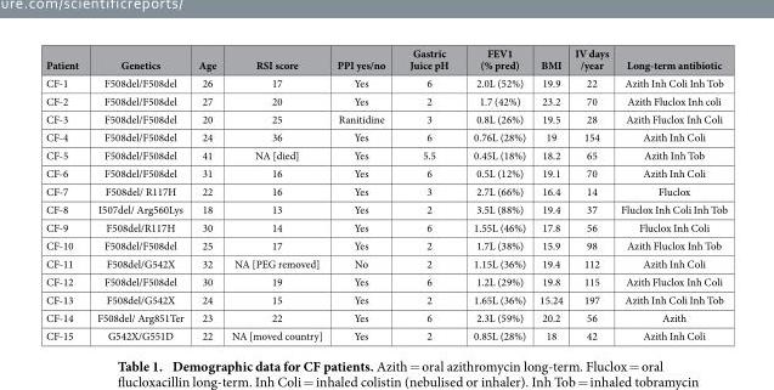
<table><thead><tr><td>Patient</td><td>Genetics</td><td>Age</td><td>RSI score</td><td>PPI yes/no</td><td>Gastric Juice pH</td><td>FEV1 (% pred)</td><td>BMI</td><td>IV days /year</td><td>Long-term antibiotic</td></tr></thead><tbody><tr><td>CF-1</td><td>F508del/F508del</td><td>26</td><td>17</td><td>Yes</td><td>6</td><td>2.0L (52%)</td><td>19.9</td><td>22</td><td>Azith Inh Coli Inh Tob</td></tr><tr><td>CF-2</td><td>F508del/F508del</td><td>27</td><td>20</td><td>Yes</td><td>2</td><td>1.7 (42%)</td><td>23.2</td><td>70</td><td>Azith Fluclox Inh coli</td></tr><tr><td>CF-3</td><td>F508del/F508del</td><td>20</td><td>25</td><td>Ranitidine</td><td>3</td><td>0.8L (26%)</td><td>19.5</td><td>28</td><td>Azith Fluclox Inh Coli</td></tr><tr><td>CF-4</td><td>F508del/F508del</td><td>24</td><td>36</td><td>Yes</td><td>6</td><td>0.76L (28%)</td><td>19</td><td>154</td><td>Azith Inh Coli</td></tr><tr><td>CF-5</td><td>F508del/F508del</td><td>41</td><td>NA [died]</td><td>Yes</td><td>5.5</td><td>0.45L (18%)</td><td>18.2</td><td>65</td><td>Azith Inh Tob</td></tr><tr><td>CF-6</td><td>F508del/F508del</td><td>31</td><td>16</td><td>Yes</td><td>6</td><td>0.5L (12%)</td><td>19.1</td><td>70</td><td>Azith Inh Coli</td></tr><tr><td>CF-7</td><td>F508del/ R117H</td><td>22</td><td>16</td><td>Yes</td><td>3</td><td>2.7L (66%)</td><td>16.4</td><td>14</td><td>Fluclox</td></tr><tr><td>CF-8</td><td>I507del/ Arg560Lys</td><td>18</td><td>13</td><td>Yes</td><td>2</td><td>3.5L (88%)</td><td>19.4</td><td>37</td><td>Fluclox Inh Coli Inh Tob</td></tr><tr><td>CF-9</td><td>F508del/R117H</td><td>30</td><td>14</td><td>Yes</td><td>6</td><td>1.55L (46%)</td><td>17.8</td><td>56</td><td>Fluclox Inh Coli</td></tr><tr><td>CF-10</td><td>F508del/F508del</td><td>25</td><td>17</td><td>Yes</td><td>2</td><td>1.7L (38%)</td><td>15.9</td><td>98</td><td>Azith Fluclox Inh Tob</td></tr><tr><td>CF-11</td><td>F508del/G542X</td><td>32</td><td>NA [PEG removed]</td><td>No</td><td>2</td><td>1.15L (36%)</td><td>19.4</td><td>112</td><td>Azith Inh Coli</td></tr><tr><td>CF-12</td><td>F508del/F508del</td><td>30</td><td>19</td><td>Yes</td><td>6</td><td>1.2L (29%)</td><td>19.8</td><td>115</td><td>Azith Fluclox Inh Coli</td></tr><tr><td>CF-13</td><td>F508del/G542X</td><td>24</td><td>15</td><td>Yes</td><td>2</td><td>1.65L (36%)</td><td>15.24</td><td>197</td><td>Azith Inh Coli Inh Tob</td></tr><tr><td>CF-14</td><td>F508del/ Arg851Ter</td><td>23</td><td>22</td><td>Yes</td><td>6</td><td>2.3L (59%)</td><td>20.2</td><td>56</td><td>Azith</td></tr><tr><td>CF-15</td><td>G542X/G551D</td><td>22</td><td>NA [moved country]</td><td>Yes</td><td>2</td><td>0.85L (28%)</td><td>18</td><td>42</td><td>Azith Inh Coli</td></tr></tbody></table>